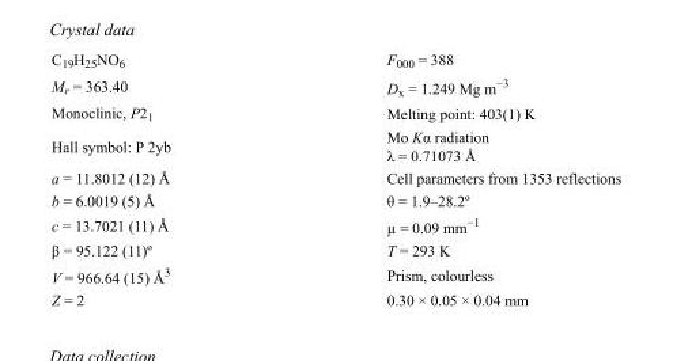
<table><tbody><tr><td>C<sub>19</sub>H<sub>25</sub>NO<sub>6</sub></td><td>F000 = 388</td></tr><tr><td>M<sub>r</sub> = 363.40</td><td>D<sub>x</sub> = 1.249 Mg m<sup>−3</sup></td></tr><tr><td>Monoclinic, P2<sub>1</sub></td><td>Melting point: 403(1) K</td></tr><tr><td>Hall symbol: P 2yb</td><td>Mo Kα radiation λ = 0.71073 Å</td></tr><tr><td>a = 11.8012 (12) Å</td><td>Cell parameters from 1353 reflections</td></tr><tr><td>b = 6.0019 (5) Å</td><td>θ = 1.9–28.2º</td></tr><tr><td>c = 13.7021 (11) Å</td><td>µ = 0.09 mm<sup>−1</sup></td></tr><tr><td>β = 95.122 (11)º</td><td>T = 293 K</td></tr><tr><td>V = 966.64 (15) Å<sup>3</sup></td><td>Prism, colourless</td></tr><tr><td>Z = 2</td><td>0.30 × 0.05 × 0.04 mm</td></tr></tbody></table>